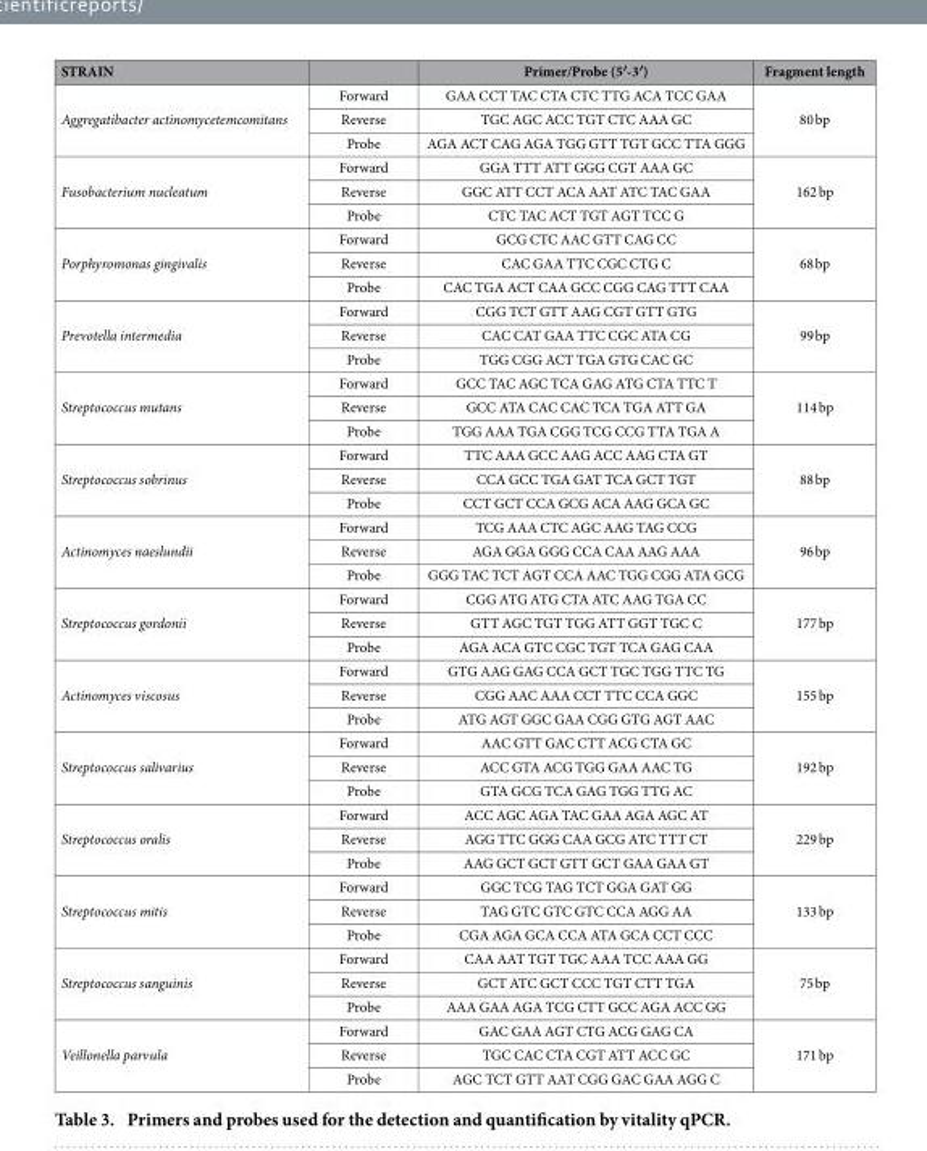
<table><thead><tr><td>STRAIN</td><td></td><td>Primer/Probe (5′-3′)</td><td>Fragment length</td></tr></thead><tbody><tr><td rowspan="3">Aggregatibacter actinomycetemcomitans</td><td>Forward</td><td>GAA CCT TAC CTA CTC TTG ACA TCC GAA</td><td rowspan="3">80 bp</td></tr><tr><td>Reverse</td><td>TGC AGC ACC TGT CTC AAA GC</td></tr><tr><td>Probe</td><td>AGA ACT CAG AGA TGG GTT TGT GCC TTA GGG</td></tr><tr><td rowspan="3">Fusobacterium nucleatum</td><td>Forward</td><td>GGA TTT ATT GGG CGT AAA GC</td><td rowspan="3">162 bp</td></tr><tr><td>Reverse</td><td>GGC ATT CCT ACA AAT ATC TAC GAA</td></tr><tr><td>Probe</td><td>CTC TAC ACT TGT AGT TCC G</td></tr><tr><td rowspan="3">Porphyromonas gingivalis</td><td>Forward</td><td>GCG CTC AAC GTT CAG CC</td><td rowspan="3">68 bp</td></tr><tr><td>Reverse</td><td>CAC GAA TTC CGC CTG C</td></tr><tr><td>Probe</td><td>CAC TGA ACT CAA GCC CGG CAG TTT CAA</td></tr><tr><td rowspan="3">Prevotella intermedia</td><td>Forward</td><td>CGG TCT GTT AAG CGT GTT GTG</td><td rowspan="3">99 bp</td></tr><tr><td>Reverse</td><td>CAC CAT GAA TTC CGC ATA CG</td></tr><tr><td>Probe</td><td>TGG CGG ACT TGA GTG CAC GC</td></tr><tr><td rowspan="3">Streptococcus mutans</td><td>Forward</td><td>GCC TAC AGC TCA GAG ATG CTA TTC T</td><td rowspan="3">114 bp</td></tr><tr><td>Reverse</td><td>GCC ATA CAC CAC TCA TGA ATT GA</td></tr><tr><td>Probe</td><td>TGG AAA TGA CGG TCG CCG TTA TGA A</td></tr><tr><td rowspan="3">Streptococcus sobrinus</td><td>Forward</td><td>TTC AAA GCC AAG ACC AAG CTA GT</td><td rowspan="3">88 bp</td></tr><tr><td>Reverse</td><td>CCA GCC TGA GAT TCA GCT TGT</td></tr><tr><td>Probe</td><td>CCT GCT CCA GCG ACA AAG GCA GC</td></tr><tr><td rowspan="3">Actinomyces naeslundii</td><td>Forward</td><td>TCG AAA CTC AGC AAG TAG CCG</td><td rowspan="3">96 bp</td></tr><tr><td>Reverse</td><td>AGA GGA GGG CCA CAA AAG AAA</td></tr><tr><td>Probe</td><td>GGG TAC TCT AGT CCA AAC TGG CGG ATA GCG</td></tr><tr><td rowspan="3">Streptococcus gordonii</td><td>Forward</td><td>CGG ATG ATG CTA ATC AAG TGA CC</td><td rowspan="3">177 bp</td></tr><tr><td>Reverse</td><td>GTT AGC TGT TGG ATT GGT TGC C</td></tr><tr><td>Probe</td><td>AGA ACA GTC CGC TGT TCA GAG CAA</td></tr><tr><td rowspan="3">Actinomyces viscosus</td><td>Forward</td><td>GTG AAG GAG CCA GCT TGC TGG TTC TG</td><td rowspan="3">155 bp</td></tr><tr><td>Reverse</td><td>CGG AAC AAA CCT TTC CCA GGC</td></tr><tr><td>Probe</td><td>ATG AGT GGC GAA CGG GTG AGT AAC</td></tr><tr><td rowspan="3">Streptococcus salivarius</td><td>Forward</td><td>AAC GTT GAC CTT ACG CTA GC</td><td rowspan="3">192 bp</td></tr><tr><td>Reverse</td><td>ACC GTA ACG TGG GAA AAC TG</td></tr><tr><td>Probe</td><td>GTA GCG TCA GAG TGG TTG AC</td></tr><tr><td rowspan="3">Streptococcus oralis</td><td>Forward</td><td>ACC AGC AGA TAC GAA AGA AGC AT</td><td rowspan="3">229 bp</td></tr><tr><td>Reverse</td><td>AGG TTC GGG CAA GCG ATC TTT CT</td></tr><tr><td>Probe</td><td>AAG GCT GCT GTT GCT GAA GAA GT</td></tr><tr><td rowspan="3">Streptococcus mitis</td><td>Forward</td><td>GGC TCG TAG TCT GGA GAT GG</td><td rowspan="3">133 bp</td></tr><tr><td>Reverse</td><td>TAG GTC GTC GTC CCA AGG AA</td></tr><tr><td>Probe</td><td>CGA AGA GCA CCA ATA GCA CCT CCC</td></tr><tr><td rowspan="3">Streptococcus sanguinis</td><td>Forward</td><td>CAA AAT TGT TGC AAA TCC AAA GG</td><td rowspan="3">75 bp</td></tr><tr><td>Reverse</td><td>GCT ATC GCT CCC TGT CTT TGA</td></tr><tr><td>Probe</td><td>AAA GAA AGA TCG CTT GCC AGA ACC GG</td></tr><tr><td rowspan="3">Veillonella parvula</td><td>Forward</td><td>GAC GAA AGT CTG ACG GAG CA</td><td rowspan="3">171 bp</td></tr><tr><td>Reverse</td><td>TGC CAC CTA CGT ATT ACC GC</td></tr><tr><td>Probe</td><td>AGC TCT GTT AAT CGG GAC GAA AGG C</td></tr></tbody></table>